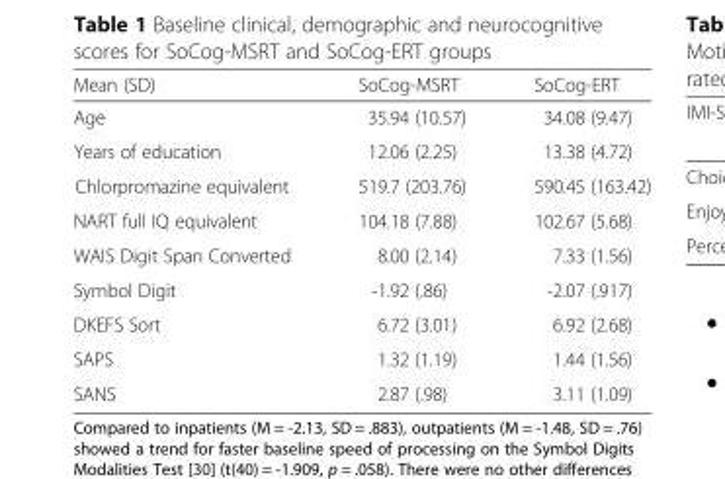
<table><thead><tr><td>Mean (SD)</td><td>SoCog-MSRT</td><td>SoCog-ERT</td></tr></thead><tbody><tr><td>Age</td><td>35.94 (10.57)</td><td>34.08 (9.47)</td></tr><tr><td>Years of education</td><td>12.06 (2.25)</td><td>13.38 (4.72)</td></tr><tr><td>Chlorpromazine equivalent</td><td>519.7 (203.76)</td><td>590.45 (163.42)</td></tr><tr><td>NART full IQ equivalent</td><td>104.18 (7.88)</td><td>102.67 (5.68)</td></tr><tr><td>WAIS Digit Span Converted</td><td>8.00 (2.14)</td><td>7.33 (1.56)</td></tr><tr><td>Symbol Digit</td><td>-1.92 (.86)</td><td>-2.07 (.917)</td></tr><tr><td>DKEFS Sort</td><td>6.72 (3.01)</td><td>6.92 (2.68)</td></tr><tr><td>SAPS</td><td>1.32 (1.19)</td><td>1.44 (1.56)</td></tr><tr><td>SANS</td><td>2.87 (.98)</td><td>3.11 (1.09)</td></tr></tbody></table>